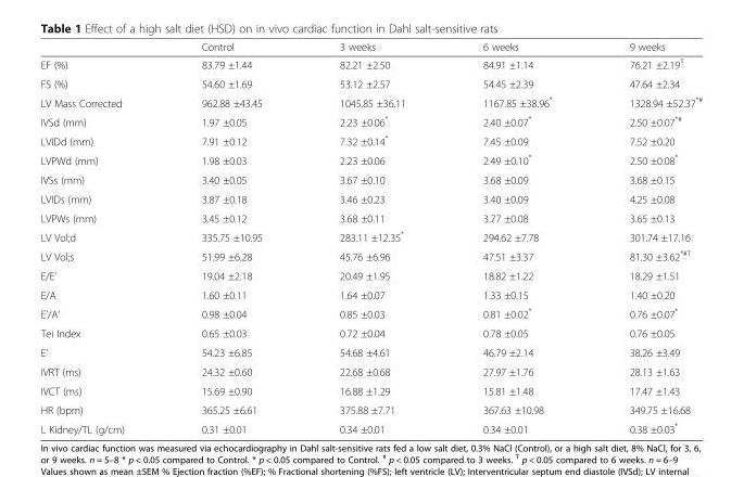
<table><thead><tr><td></td><td>Control</td><td>3 weeks</td><td>6 weeks</td><td>9 weeks</td></tr></thead><tbody><tr><td>EF (%)</td><td>83.79 ±1.44</td><td>82.21 ±2.50</td><td>84.91 ±1.14</td><td>76.21 ±2.19<sup>T</sup></td></tr><tr><td>FS (%)</td><td>54.60 ±1.69</td><td>53.12 ±2.57</td><td>54.45 ±2.39</td><td>47.64 ±2.34</td></tr><tr><td>LV Mass Corrected</td><td>962.88 ±43.45</td><td>1045.85 ±36.11</td><td>1167.85 ±38.96*</td><td>1328.94 ±52.37<sup>*#</sup></td></tr><tr><td>IVSd (mm)</td><td>1.97 ±0.05</td><td>2.23 ±0.06*</td><td>2.40 ±0.07*</td><td>2.50 ±0.07<sup>*#</sup></td></tr><tr><td>LVIDd (mm)</td><td>7.91 ±0.12</td><td>7.32 ±0.14*</td><td>7.45 ±0.09</td><td>7.52 ±0.20</td></tr><tr><td>LVPWd (mm)</td><td>1.98 ±0.03</td><td>2.23 ±0.06</td><td>2.49 ±0.10*</td><td>2.50 ±0.08*</td></tr><tr><td>IVSs (mm)</td><td>3.40 ±0.05</td><td>3.67 ±0.10</td><td>3.68 ±0.09</td><td>3.68 ±0.15</td></tr><tr><td>LVIDs (mm)</td><td>3.87 ±0.18</td><td>3.46 ±0.23</td><td>3.40 ±0.09</td><td>4.25 ±0.08</td></tr><tr><td>LVPWs (mm)</td><td>3.45 ±0.12</td><td>3.68 ±0.11</td><td>3.77 ±0.08</td><td>3.65 ±0.13</td></tr><tr><td>LV Vol;d</td><td>335.75 ±10.95</td><td>283.11 ±12.35*</td><td>294.62 ±7.78</td><td>301.74 ±17.16</td></tr><tr><td>LV Vol;s</td><td>51.99 ±6.28</td><td>45.76 ±6.96</td><td>47.51 ±3.37</td><td>81.30 ±3.62<sup>*#T</sup></td></tr><tr><td>E/E’</td><td>19.04 ±2.18</td><td>20.49 ±1.95</td><td>18.82 ±1.22</td><td>18.29 ±1.51</td></tr><tr><td>E/A</td><td>1.60 ±0.11</td><td>1.64 ±0.07</td><td>1.33 ±0.15</td><td>1.40 ±0.20</td></tr><tr><td>E’/A’</td><td>0.98 ±0.04</td><td>0.85 ±0.03</td><td>0.81 ±0.02*</td><td>0.76 ±0.07*</td></tr><tr><td>Tei Index</td><td>0.65 ±0.03</td><td>0.72 ±0.04</td><td>0.78 ±0.05</td><td>0.76 ±0.05</td></tr><tr><td>E’</td><td>54.23 ±6.85</td><td>54.68 ±4.61</td><td>46.79 ±2.14</td><td>38.26 ±3.49</td></tr><tr><td>IVRT (ms)</td><td>24.32 ±0.60</td><td>22.68 ±0.68</td><td>27.97 ±1.76</td><td>28.13 ±1.63</td></tr><tr><td>IVCT (ms)</td><td>15.69 ±0.90</td><td>16.88 ±1.29</td><td>15.81 ±1.48</td><td>17.47 ±1.43</td></tr><tr><td>HR (bpm)</td><td>365.25 ±6.61</td><td>375.88 ±7.71</td><td>367.63 ±10.98</td><td>349.75 ±16.68</td></tr><tr><td>L Kidney/TL (g/cm)</td><td>0.31 ±0.01</td><td>0.34 ±0.01</td><td>0.34 ±0.01</td><td>0.38 ±0.03*</td></tr></tbody></table>